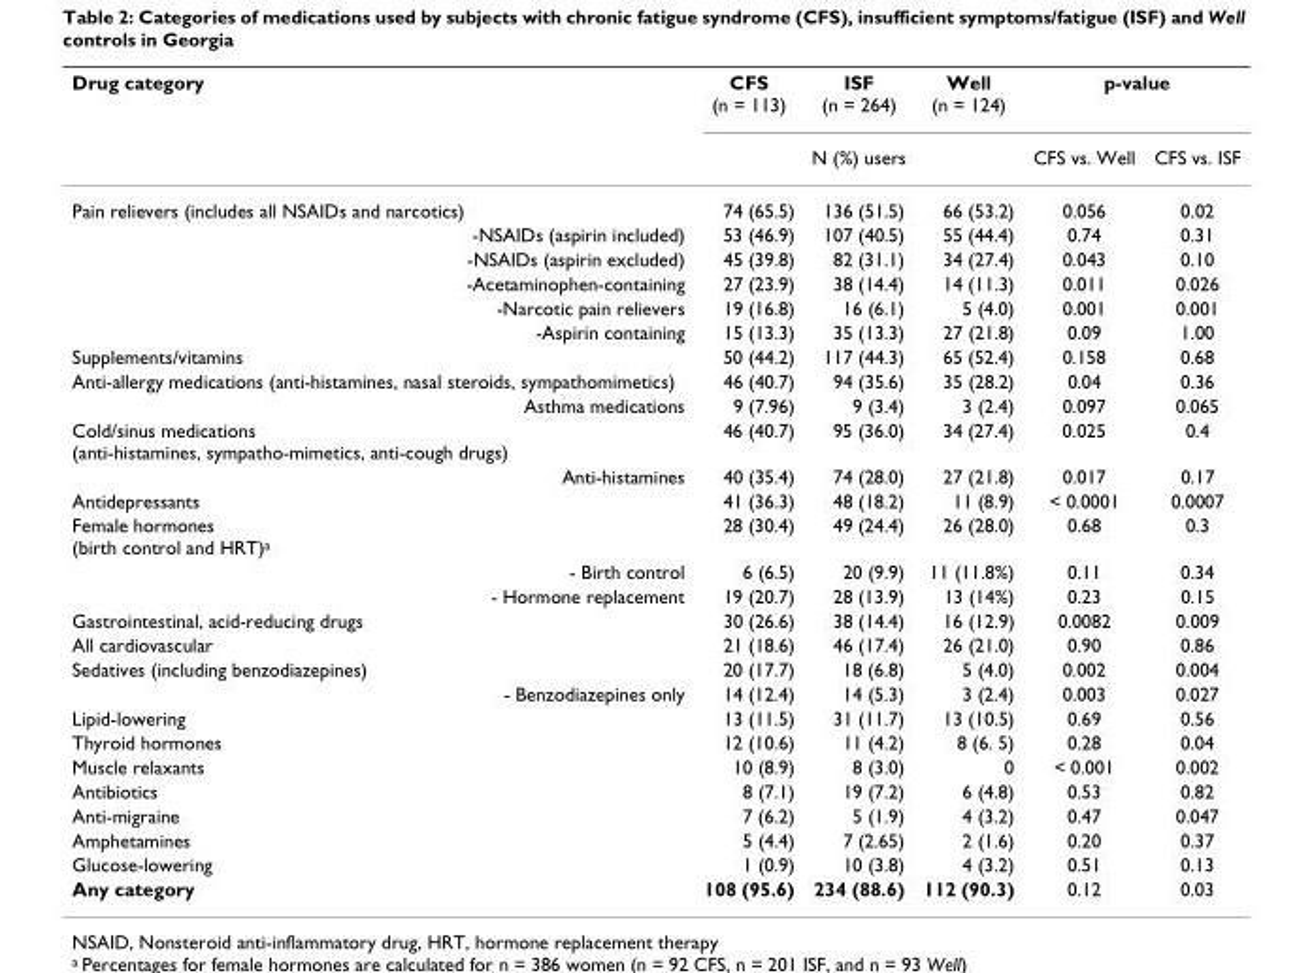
<table><thead><tr><td rowspan="2">Drug category</td><td>CFS (n = 113)</td><td>ISF (n = 264)</td><td>Well (n = 124)</td><td colspan="2">p-value</td></tr><tr><td colspan="3">N (%) users</td><td>CFS vs. Well</td><td>CFS vs. ISF</td></tr></thead><tbody><tr><td>Pain relievers (includes all NSAIDs and narcotics)</td><td>74 (65.5)</td><td>136 (51.5)</td><td>66 (53.2)</td><td>0.056</td><td>0.02</td></tr><tr><td>-NSAIDs (aspirin included)</td><td>53 (46.9)</td><td>107 (40.5)</td><td>55 (44.4)</td><td>0.74</td><td>0.31</td></tr><tr><td>-NSAIDs (aspirin excluded)</td><td>45 (39.8)</td><td>82 (31.1)</td><td>34 (27.4)</td><td>0.043</td><td>0.10</td></tr><tr><td>-Acetaminophen-containing</td><td>27 (23.9)</td><td>38 (14.4)</td><td>14 (11.3)</td><td>0.011</td><td>0.026</td></tr><tr><td>-Narcotic pain relievers</td><td>19 (16.8)</td><td>16 (6.1)</td><td>5 (4.0)</td><td>0.001</td><td>0.001</td></tr><tr><td>-Aspirin containing</td><td>15 (13.3)</td><td>35 (13.3)</td><td>27 (21.8)</td><td>0.09</td><td>1.00</td></tr><tr><td>Supplements/vitamins</td><td>50 (44.2)</td><td>117 (44.3)</td><td>65 (52.4)</td><td>0.158</td><td>0.68</td></tr><tr><td>Anti-allergy medications (anti-histamines, nasal steroids, sympathomimetics)</td><td>46 (40.7)</td><td>94 (35.6)</td><td>35 (28.2)</td><td>0.04</td><td>0.36</td></tr><tr><td>Asthma medications</td><td>9 (7.96)</td><td>9 (3.4)</td><td>3 (2.4)</td><td>0.097</td><td>0.065</td></tr><tr><td>Cold/sinus medications (anti-histamines, sympatho-mimetics, anti-cough drugs)</td><td>46 (40.7)</td><td>95 (36.0)</td><td>34 (27.4)</td><td>0.025</td><td>0.4</td></tr><tr><td>Anti-histamines</td><td>40 (35.4)</td><td>74 (28.0)</td><td>27 (21.8)</td><td>0.017</td><td>0.17</td></tr><tr><td>Antidepressants</td><td>41 (36.3)</td><td>48 (18.2)</td><td>11 (8.9)</td><td>&lt; 0.0001</td><td>0.0007</td></tr><tr><td>Female hormones (birth control and HRT)<sup>a</sup></td><td>28 (30.4)</td><td>49 (24.4)</td><td>26 (28.0)</td><td>0.68</td><td>0.3</td></tr><tr><td>- Birth control</td><td>6 (6.5)</td><td>20 (9.9)</td><td>11 (11.8%)</td><td>0.11</td><td>0.34</td></tr><tr><td>- Hormone replacement</td><td>19 (20.7)</td><td>28 (13.9)</td><td>13 (14%)</td><td>0.23</td><td>0.15</td></tr><tr><td>Gastrointestinal, acid-reducing drugs</td><td>30 (26.6)</td><td>38 (14.4)</td><td>16 (12.9)</td><td>0.0082</td><td>0.009</td></tr><tr><td>All cardiovascular</td><td>21 (18.6)</td><td>46 (17.4)</td><td>26 (21.0)</td><td>0.90</td><td>0.86</td></tr><tr><td>Sedatives (including benzodiazepines)</td><td>20 (17.7)</td><td>18 (6.8)</td><td>5 (4.0)</td><td>0.002</td><td>0.004</td></tr><tr><td>- Benzodiazepines only</td><td>14 (12.4)</td><td>14 (5.3)</td><td>3 (2.4)</td><td>0.003</td><td>0.027</td></tr><tr><td>Lipid-lowering</td><td>13 (11.5)</td><td>31 (11.7)</td><td>13 (10.5)</td><td>0.69</td><td>0.56</td></tr><tr><td>Thyroid hormones</td><td>12 (10.6)</td><td>11 (4.2)</td><td>8 (6. 5)</td><td>0.28</td><td>0.04</td></tr><tr><td>Muscle relaxants</td><td>10 (8.9)</td><td>8 (3.0)</td><td>0</td><td>&lt; 0.001</td><td>0.002</td></tr><tr><td>Antibiotics</td><td>8 (7.1)</td><td>19 (7.2)</td><td>6 (4.8)</td><td>0.53</td><td>0.82</td></tr><tr><td>Anti-migraine</td><td>7 (6.2)</td><td>5 (1.9)</td><td>4 (3.2)</td><td>0.47</td><td>0.047</td></tr><tr><td>Amphetamines</td><td>5 (4.4)</td><td>7 (2.65)</td><td>2 (1.6)</td><td>0.20</td><td>0.37</td></tr><tr><td>Glucose-lowering</td><td>1 (0.9)</td><td>10 (3.8)</td><td>4 (3.2)</td><td>0.51</td><td>0.13</td></tr><tr><td>Any category</td><td>108 (95.6)</td><td>234 (88.6)</td><td>112 (90.3)</td><td>0.12</td><td>0.03</td></tr></tbody></table>